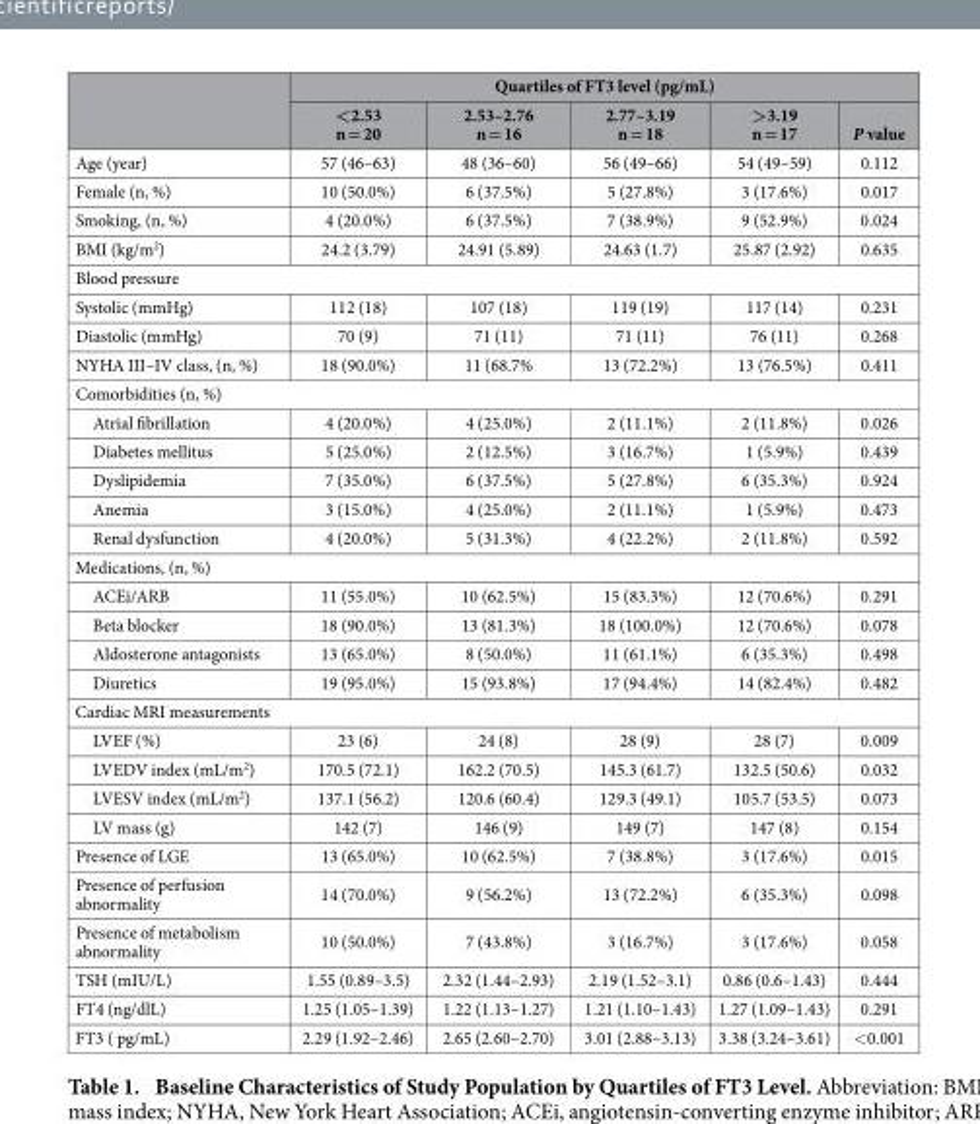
<table><thead><tr><td rowspan="2"></td><td colspan="5">Quartiles of FT3 level (pg/mL)</td></tr><tr><td>&lt;2.53 n = 20</td><td>2.53–2.76 n = 16</td><td>2.77–3.19 n = 18</td><td>&gt;3.19 n = 17</td><td>P value</td></tr></thead><tbody><tr><td>Age (year)</td><td>57 (46–63)</td><td>48 (36–60)</td><td>56 (49–66)</td><td>54 (49–59)</td><td>0.112</td></tr><tr><td>Female (n, %)</td><td>10 (50.0%)</td><td>6 (37.5%)</td><td>5 (27.8%)</td><td>3 (17.6%)</td><td>0.017</td></tr><tr><td>Smoking, (n, %)</td><td>4 (20.0%)</td><td>6 (37.5%)</td><td>7 (38.9%)</td><td>9 (52.9%)</td><td>0.024</td></tr><tr><td>BMI (kg/m<sup>2</sup>)</td><td>24.2 (3.79)</td><td>24.91 (5.89)</td><td>24.63 (1.7)</td><td>25.87 (2.92)</td><td>0.635</td></tr><tr><td colspan="6">Blood pressure</td></tr><tr><td>Systolic (mmHg)</td><td>112 (18)</td><td>107 (18)</td><td>119 (19)</td><td>117 (14)</td><td>0.231</td></tr><tr><td>Diastolic (mmHg)</td><td>70 (9)</td><td>71 (11)</td><td>71 (11)</td><td>76 (11)</td><td>0.268</td></tr><tr><td>NYHA III–IV class, (n, %)</td><td>18 (90.0%)</td><td>11 (68.7%</td><td>13 (72.2%)</td><td>13 (76.5%)</td><td>0.411</td></tr><tr><td colspan="6">Comorbidities (n, %)</td></tr><tr><td>Atrial fibrillation</td><td>4 (20.0%)</td><td>4 (25.0%)</td><td>2 (11.1%)</td><td>2 (11.8%)</td><td>0.026</td></tr><tr><td>Diabetes mellitus</td><td>5 (25.0%)</td><td>2 (12.5%)</td><td>3 (16.7%)</td><td>1 (5.9%)</td><td>0.439</td></tr><tr><td>Dyslipidemia</td><td>7 (35.0%)</td><td>6 (37.5%)</td><td>5 (27.8%)</td><td>6 (35.3%)</td><td>0.924</td></tr><tr><td>Anemia</td><td>3 (15.0%)</td><td>4 (25.0%)</td><td>2 (11.1%)</td><td>1 (5.9%)</td><td>0.473</td></tr><tr><td>Renal dysfunction</td><td>4 (20.0%)</td><td>5 (31.3%)</td><td>4 (22.2%)</td><td>2 (11.8%)</td><td>0.592</td></tr><tr><td colspan="6">Medications, (n, %)</td></tr><tr><td>ACEi/ARB</td><td>11 (55.0%)</td><td>10 (62.5%)</td><td>15 (83.3%)</td><td>12 (70.6%)</td><td>0.291</td></tr><tr><td>Beta blocker</td><td>18 (90.0%)</td><td>13 (81.3%)</td><td>18 (100.0%)</td><td>12 (70.6%)</td><td>0.078</td></tr><tr><td>Aldosterone antagonists</td><td>13 (65.0%)</td><td>8 (50.0%)</td><td>11 (61.1%)</td><td>6 (35.3%)</td><td>0.498</td></tr><tr><td>Diuretics</td><td>19 (95.0%)</td><td>15 (93.8%)</td><td>17 (94.4%)</td><td>14 (82.4%)</td><td>0.482</td></tr><tr><td colspan="6">Cardiac MRI measurements</td></tr><tr><td>LVEF (%)</td><td>23 (6)</td><td>24 (8)</td><td>28 (9)</td><td>28 (7)</td><td>0.009</td></tr><tr><td>LVEDV index (mL/m<sup>2</sup>)</td><td>170.5 (72.1)</td><td>162.2 (70.5)</td><td>145.3 (61.7)</td><td>132.5 (50.6)</td><td>0.032</td></tr><tr><td>LVESV index (mL/m<sup>2</sup>)</td><td>137.1 (56.2)</td><td>120.6 (60.4)</td><td>129.3 (49.1)</td><td>105.7 (53.5)</td><td>0.073</td></tr><tr><td>LV mass (g)</td><td>142 (7)</td><td>146 (9)</td><td>149 (7)</td><td>147 (8)</td><td>0.154</td></tr><tr><td>Presence of LGE</td><td>13 (65.0%)</td><td>10 (62.5%)</td><td>7 (38.8%)</td><td>3 (17.6%)</td><td>0.015</td></tr><tr><td>Presence of perfusion abnormality</td><td>14 (70.0%)</td><td>9 (56.2%)</td><td>13 (72.2%)</td><td>6 (35.3%)</td><td>0.098</td></tr><tr><td>Presence of metabolism abnormality</td><td>10 (50.0%)</td><td>7 (43.8%)</td><td>3 (16.7%)</td><td>3 (17.6%)</td><td>0.058</td></tr><tr><td>TSH (mIU/L)</td><td>1.55 (0.89–3.5)</td><td>2.32 (1.44–2.93)</td><td>2.19 (1.52–3.1)</td><td>0.86 (0.6–1.43)</td><td>0.444</td></tr><tr><td>FT4 (ng/dlL)</td><td>1.25 (1.05–1.39)</td><td>1.22 (1.13–1.27)</td><td>1.21 (1.10–1.43)</td><td>1.27 (1.09–1.43)</td><td>0.291</td></tr><tr><td>FT3 ( pg/mL)</td><td>2.29 (1.92–2.46)</td><td>2.65 (2.60–2.70)</td><td>3.01 (2.88–3.13)</td><td>3.38 (3.24–3.61)</td><td>&lt; 0.001</td></tr></tbody></table>